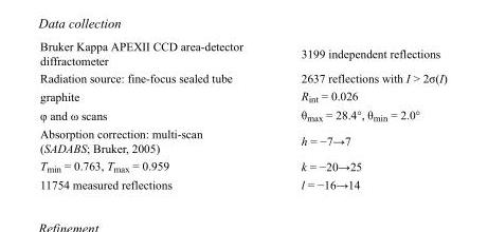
<table><tbody><tr><td>Bruker Kappa APEXII CCD area-detector diffractometer</td><td>3199 independent reflections</td></tr><tr><td>Radiation source: fine-focus sealed tube</td><td>2637 reflections with I &gt; 2σ(I)</td></tr><tr><td>graphite</td><td>R<sub>int</sub> = 0.026</td></tr><tr><td>φ and ω scans</td><td>θ<sub>max</sub> = 28.4°, θ<sub>min</sub> = 2.0°</td></tr><tr><td>Absorption correction: multi-scan (SADABS; Bruker, 2005)</td><td>h = −7→7</td></tr><tr><td>T<sub>min</sub> = 0.763, T<sub>max</sub> = 0.959</td><td>k = −20→25</td></tr><tr><td>11754 measured reflections</td><td>l = −16→14</td></tr></tbody></table>